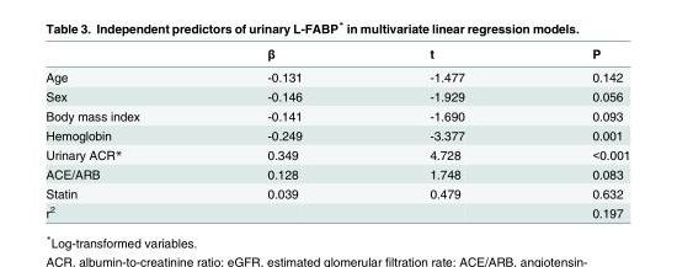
<table><thead><tr><td></td><td>β</td><td>t</td><td>P</td></tr></thead><tbody><tr><td>Age</td><td>-0.131</td><td>-1.477</td><td>0.142</td></tr><tr><td>Sex</td><td>-0.146</td><td>-1.929</td><td>0.056</td></tr><tr><td>Body mass index</td><td>-0.141</td><td>-1.690</td><td>0.093</td></tr><tr><td>Hemoglobin</td><td>-0.249</td><td>-3.377</td><td>0.001</td></tr><tr><td>Urinary ACR*</td><td>0.349</td><td>4.728</td><td>&lt;0.001</td></tr><tr><td>ACE/ARB</td><td>0.128</td><td>1.748</td><td>0.083</td></tr><tr><td>Statin</td><td>0.039</td><td>0.479</td><td>0.632</td></tr><tr><td>r<sup>2</sup></td><td></td><td></td><td>0.197</td></tr></tbody></table>